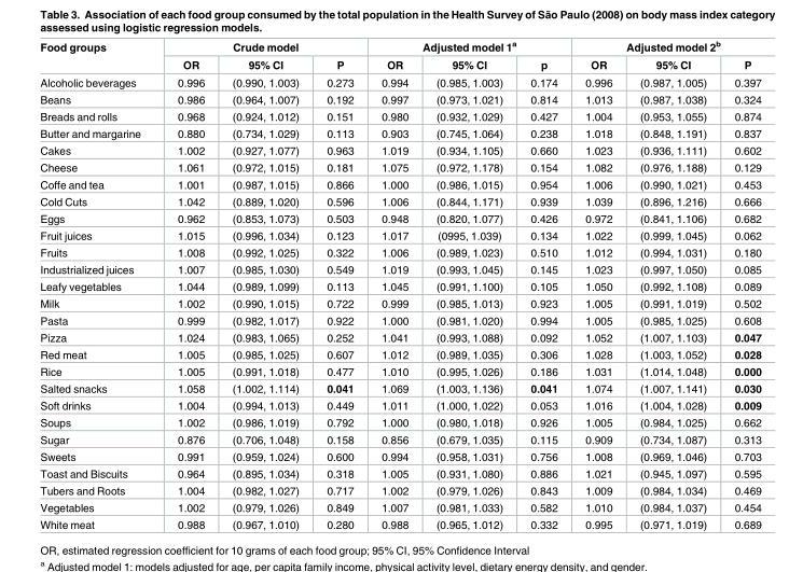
<table><thead><tr><td rowspan="2">Food groups</td><td colspan="3">Crude model</td><td colspan="3">Adjusted model 1<sup>a</sup></td><td colspan="3">Adjusted model 2<sup>b</sup></td></tr><tr><td>OR</td><td>95% CI</td><td>P</td><td>OR</td><td>95% CI</td><td>p</td><td>OR</td><td>95% CI</td><td>P</td></tr></thead><tbody><tr><td>Alcoholic beverages</td><td>0.996</td><td>(0.990, 1.003)</td><td>0.273</td><td>0.994</td><td>(0.985, 1.003)</td><td>0.174</td><td>0.996</td><td>(0.987, 1.005)</td><td>0.397</td></tr><tr><td>Beans</td><td>0.986</td><td>(0.964, 1.007)</td><td>0.192</td><td>0.997</td><td>(0.973, 1.021)</td><td>0.814</td><td>1.013</td><td>(0.987, 1.038)</td><td>0.324</td></tr><tr><td>Breads and rolls</td><td>0.968</td><td>(0.924, 1.012)</td><td>0.151</td><td>0.980</td><td>(0.932, 1.029)</td><td>0.427</td><td>1.004</td><td>(0.953, 1.055)</td><td>0.874</td></tr><tr><td>Butter and margarine</td><td>0.880</td><td>(0.734, 1.029)</td><td>0.113</td><td>0.903</td><td>(0.745, 1.064)</td><td>0.238</td><td>1.018</td><td>(0.848, 1.191)</td><td>0.837</td></tr><tr><td>Cakes</td><td>1.002</td><td>(0.927, 1.077)</td><td>0.963</td><td>1.019</td><td>(0.934, 1.105)</td><td>0.660</td><td>1.023</td><td>(0.936, 1.111)</td><td>0.602</td></tr><tr><td>Cheese</td><td>1.061</td><td>(0.972, 1.015)</td><td>0.181</td><td>1.075</td><td>(0.972, 1.178)</td><td>0.154</td><td>1.082</td><td>(0.976, 1.188)</td><td>0.129</td></tr><tr><td>Coffe and tea</td><td>1.001</td><td>(0.987, 1.015)</td><td>0.866</td><td>1.000</td><td>(0.986, 1.015)</td><td>0.954</td><td>1.006</td><td>(0.990, 1.021)</td><td>0.453</td></tr><tr><td>Cold Cuts</td><td>1.042</td><td>(0.889, 1.020)</td><td>0.596</td><td>1.006</td><td>(0.844, 1.171)</td><td>0.939</td><td>1.039</td><td>(0.896, 1.216)</td><td>0.666</td></tr><tr><td>Eggs</td><td>0.962</td><td>(0.853, 1.073)</td><td>0.503</td><td>0.948</td><td>(0.820, 1.077)</td><td>0.426</td><td>0.972</td><td>(0.841, 1.106)</td><td>0.682</td></tr><tr><td>Fruit juices</td><td>1.015</td><td>(0.996, 1.034)</td><td>0.123</td><td>1.017</td><td>(0995, 1.039)</td><td>0.134</td><td>1.022</td><td>(0.999, 1.045)</td><td>0.062</td></tr><tr><td>Fruits</td><td>1.008</td><td>(0.992, 1.025)</td><td>0.322</td><td>1.006</td><td>(0.989, 1.023)</td><td>0.510</td><td>1.012</td><td>(0.994, 1.031)</td><td>0.180</td></tr><tr><td>Industrialized juices</td><td>1.007</td><td>(0.985, 1.030)</td><td>0.549</td><td>1.019</td><td>(0.993, 1.045)</td><td>0.145</td><td>1.023</td><td>(0.997, 1.050)</td><td>0.085</td></tr><tr><td>Leafy vegetables</td><td>1.044</td><td>(0.989, 1.099)</td><td>0.113</td><td>1.045</td><td>(0.991, 1.100)</td><td>0.105</td><td>1.050</td><td>(0.992, 1.108)</td><td>0.089</td></tr><tr><td>Milk</td><td>1.002</td><td>(0.990, 1.015)</td><td>0.722</td><td>0.999</td><td>(0.985, 1.013)</td><td>0.923</td><td>1.005</td><td>(0.991, 1.019)</td><td>0.502</td></tr><tr><td>Pasta</td><td>0.999</td><td>(0.982, 1.017)</td><td>0.922</td><td>1.000</td><td>(0.981, 1.020)</td><td>0.994</td><td>1.005</td><td>(0.985, 1.025)</td><td>0.608</td></tr><tr><td>Pizza</td><td>1.024</td><td>(0.983, 1.065)</td><td>0.252</td><td>1.041</td><td>(0.993, 1.088)</td><td>0.092</td><td>1.052</td><td>(1.007, 1.103)</td><td>0.047</td></tr><tr><td>Red meat</td><td>1.005</td><td>(0.985, 1.025)</td><td>0.607</td><td>1.012</td><td>(0.989, 1.035)</td><td>0.306</td><td>1.028</td><td>(1.003, 1.052)</td><td>0.028</td></tr><tr><td>Rice</td><td>1.005</td><td>(0.991, 1.018)</td><td>0.477</td><td>1.010</td><td>(0.995, 1.026)</td><td>0.186</td><td>1.031</td><td>(1.014, 1.048)</td><td>0.000</td></tr><tr><td>Salted snacks</td><td>1.058</td><td>(1.002, 1.114)</td><td>0.041</td><td>1.069</td><td>(1.003, 1.136)</td><td>0.041</td><td>1.074</td><td>(1.007, 1.141)</td><td>0.030</td></tr><tr><td>Soft drinks</td><td>1.004</td><td>(0.994, 1.013)</td><td>0.449</td><td>1.011</td><td>(1.000, 1.022)</td><td>0.053</td><td>1.016</td><td>(1.004, 1.028)</td><td>0.009</td></tr><tr><td>Soups</td><td>1.002</td><td>(0.986, 1.019)</td><td>0.792</td><td>1.000</td><td>(0.980, 1.018)</td><td>0.926</td><td>1.005</td><td>(0.984, 1.025)</td><td>0.662</td></tr><tr><td>Sugar</td><td>0.876</td><td>(0.706, 1.048)</td><td>0.158</td><td>0.856</td><td>(0.679, 1.035)</td><td>0.115</td><td>0.909</td><td>(0.734, 1.087)</td><td>0.313</td></tr><tr><td>Sweets</td><td>0.991</td><td>(0.959, 1.024)</td><td>0.600</td><td>0.994</td><td>(0.958, 1.031)</td><td>0.756</td><td>1.008</td><td>(0.969, 1.046)</td><td>0.703</td></tr><tr><td>Toast and Biscuits</td><td>0.964</td><td>(0.895, 1.034)</td><td>0.318</td><td>1.005</td><td>(0.931, 1.080)</td><td>0.886</td><td>1.021</td><td>(0.945, 1.097)</td><td>0.595</td></tr><tr><td>Tubers and Roots</td><td>1.004</td><td>(0.982, 1.027)</td><td>0.717</td><td>1.002</td><td>(0.979, 1.026)</td><td>0.843</td><td>1.009</td><td>(0.984, 1.034)</td><td>0.469</td></tr><tr><td>Vegetables</td><td>1.002</td><td>(0.979, 1.026)</td><td>0.849</td><td>1.007</td><td>(0.981, 1.033)</td><td>0.582</td><td>1.010</td><td>(0.984, 1.037)</td><td>0.454</td></tr><tr><td>White meat</td><td>0.988</td><td>(0.967, 1.010)</td><td>0.280</td><td>0.988</td><td>(0.965, 1.012)</td><td>0.332</td><td>0.995</td><td>(0.971, 1.019)</td><td>0.689</td></tr></tbody></table>